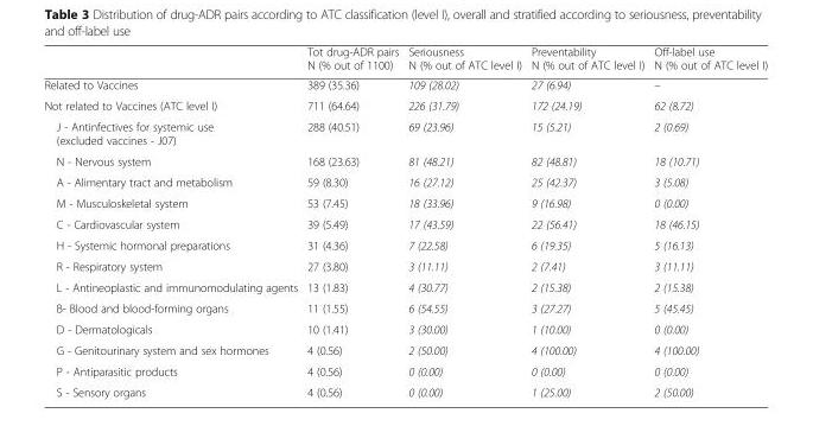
<table><thead><tr><td></td><td>Tot drug-ADR pairs N (% out of 1100)</td><td>Seriousness N (% out of ATC level I)</td><td>Preventability N (% out of ATC level I)</td><td>Off-label use N (% out of ATC level I)</td></tr></thead><tbody><tr><td>Related to Vaccines</td><td>389 (35.36)</td><td>109 (28.02)</td><td>27 (6.94)</td><td>–</td></tr><tr><td>Not related to Vaccines (ATC level I)</td><td>711 (64.64)</td><td>226 (31.79)</td><td>172 (24.19)</td><td>62 (8.72)</td></tr><tr><td>J - Antinfectives for systemic use (excluded vaccines - J07)</td><td>288 (40.51)</td><td>69 (23.96)</td><td>15 (5.21)</td><td>2 (0.69)</td></tr><tr><td>N - Nervous system</td><td>168 (23.63)</td><td>81 (48.21)</td><td>82 (48.81)</td><td>18 (10.71)</td></tr><tr><td>A - Alimentary tract and metabolism</td><td>59 (8.30)</td><td>16 (27.12)</td><td>25 (42.37)</td><td>3 (5.08)</td></tr><tr><td>M - Musculoskeletal system</td><td>53 (7.45)</td><td>18 (33.96)</td><td>9 (16.98)</td><td>0 (0.00)</td></tr><tr><td>C - Cardiovascular system</td><td>39 (5.49)</td><td>17 (43.59)</td><td>22 (56.41)</td><td>18 (46.15)</td></tr><tr><td>H - Systemic hormonal preparations</td><td>31 (4.36)</td><td>7 (22.58)</td><td>6 (19.35)</td><td>5 (16.13)</td></tr><tr><td>R - Respiratory system</td><td>27 (3.80)</td><td>3 (11.11)</td><td>2 (7.41)</td><td>3 (11.11)</td></tr><tr><td>L - Antineoplastic and immunomodulating agents</td><td>13 (1.83)</td><td>4 (30.77)</td><td>2 (15.38)</td><td>2 (15.38)</td></tr><tr><td>B- Blood and blood-forming organs</td><td>11 (1.55)</td><td>6 (54.55)</td><td>3 (27.27)</td><td>5 (45.45)</td></tr><tr><td>D - Dermatologicals</td><td>10 (1.41)</td><td>3 (30.00)</td><td>1 (10.00)</td><td>0 (0.00)</td></tr><tr><td>G - Genitourinary system and sex hormones</td><td>4 (0.56)</td><td>2 (50.00)</td><td>4 (100.00)</td><td>4 (100.00)</td></tr><tr><td>P - Antiparasitic products</td><td>4 (0.56)</td><td>0 (0.00)</td><td>0 (0.00)</td><td>0 (0.00)</td></tr><tr><td>S - Sensory organs</td><td>4 (0.56)</td><td>0 (0.00)</td><td>1 (25.00)</td><td>2 (50.00)</td></tr></tbody></table>